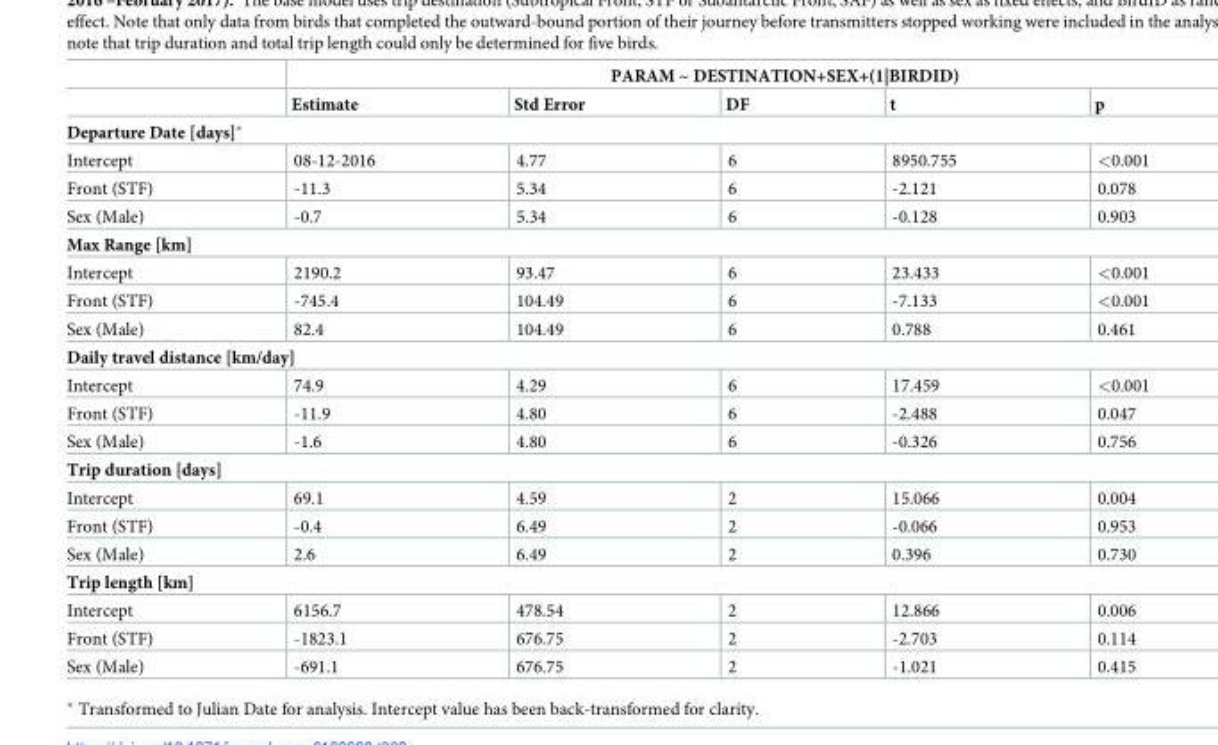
<table><thead><tr><td rowspan="2"></td><td colspan="5">PARAM ~ DESTINATION+SEX+(1|BIRDID)</td></tr><tr><td>Estimate</td><td>Std Error</td><td>DF</td><td>t</td><td>p</td></tr></thead><tbody><tr><td colspan="6">Departure Date [days]*</td></tr><tr><td>Intercept</td><td>08-12-2016</td><td>4.77</td><td>6</td><td>8950.755</td><td>&lt;0.001</td></tr><tr><td>Front (STF)</td><td>-11.3</td><td>5.34</td><td>6</td><td>-2.121</td><td>0.078</td></tr><tr><td>Sex (Male)</td><td>-0.7</td><td>5.34</td><td>6</td><td>-0.128</td><td>0.903</td></tr><tr><td colspan="6">Max Range [km]</td></tr><tr><td>Intercept</td><td>2190.2</td><td>93.47</td><td>6</td><td>23.433</td><td>&lt;0.001</td></tr><tr><td>Front (STF)</td><td>-745.4</td><td>104.49</td><td>6</td><td>-7.133</td><td>&lt;0.001</td></tr><tr><td>Sex (Male)</td><td>82.4</td><td>104.49</td><td>6</td><td>0.788</td><td>0.461</td></tr><tr><td colspan="6">Daily travel distance [km/day]</td></tr><tr><td>Intercept</td><td>74.9</td><td>4.29</td><td>6</td><td>17.459</td><td>&lt;0.001</td></tr><tr><td>Front (STF)</td><td>-11.9</td><td>4.80</td><td>6</td><td>-2.488</td><td>0.047</td></tr><tr><td>Sex (Male)</td><td>-1.6</td><td>4.80</td><td>6</td><td>-0.326</td><td>0.756</td></tr><tr><td colspan="6">Trip duration [days]</td></tr><tr><td>Intercept</td><td>69.1</td><td>4.59</td><td>2</td><td>15.066</td><td>0.004</td></tr><tr><td>Front (STF)</td><td>-0.4</td><td>6.49</td><td>2</td><td>-0.066</td><td>0.953</td></tr><tr><td>Sex (Male)</td><td>2.6</td><td>6.49</td><td>2</td><td>0.396</td><td>0.730</td></tr><tr><td colspan="6">Trip length [km]</td></tr><tr><td>Intercept</td><td>6156.7</td><td>478.54</td><td>2</td><td>12.866</td><td>0.006</td></tr><tr><td>Front (STF)</td><td>-1823.1</td><td>676.75</td><td>2</td><td>-2.703</td><td>0.114</td></tr><tr><td>Sex (Male)</td><td>-691.1</td><td>676.75</td><td>2</td><td>-1.021</td><td>0.415</td></tr></tbody></table>